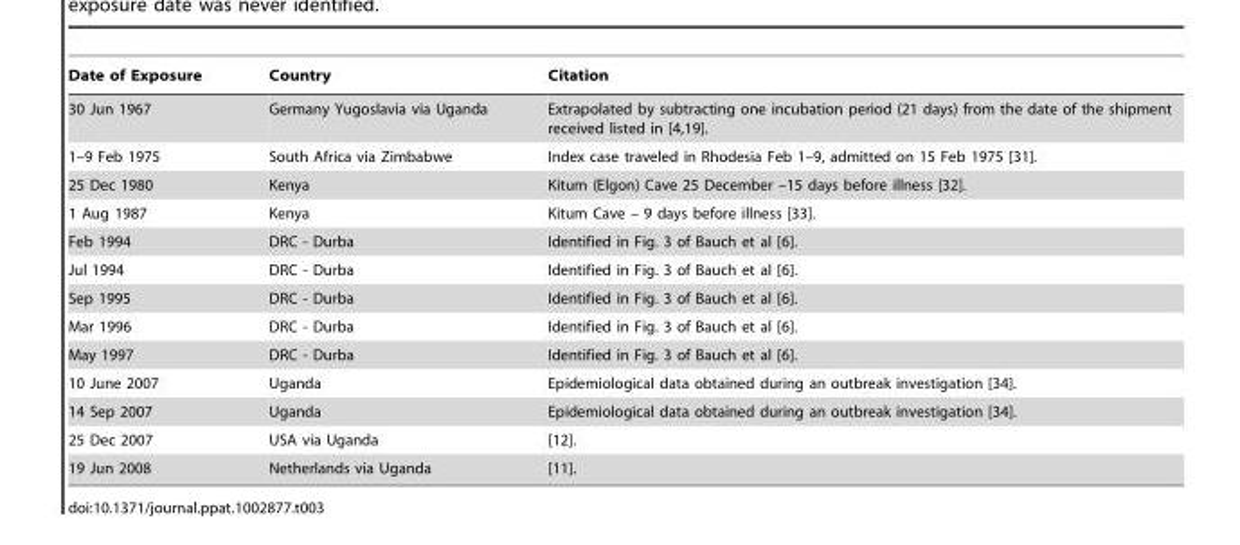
<table><thead><tr><td>Date of Exposure</td><td>Country</td><td>Citation</td></tr></thead><tbody><tr><td>30 Jun 1967</td><td>Germany Yugoslavia via Uganda</td><td>Extrapolated by subtracting one incubation period (21 days) from the date of the shipment received listed in [4,19].</td></tr><tr><td>1–9 Feb 1975</td><td>South Africa via Zimbabwe</td><td>Index case traveled in Rhodesia Feb 1–9, admitted on 15 Feb 1975 [31].</td></tr><tr><td>25 Dec 1980</td><td>Kenya</td><td>Kitum (Elgon) Cave 25 December –15 days before illness [32].</td></tr><tr><td>1 Aug 1987</td><td>Kenya</td><td>Kitum Cave – 9 days before illness [33].</td></tr><tr><td>Feb 1994</td><td>DRC - Durba</td><td>Identified in Fig. 3 of Bauch et al [6].</td></tr><tr><td>Jul 1994</td><td>DRC - Durba</td><td>Identified in Fig. 3 of Bauch et al [6].</td></tr><tr><td>Sep 1995</td><td>DRC - Durba</td><td>Identified in Fig. 3 of Bauch et al [6].</td></tr><tr><td>Mar 1996</td><td>DRC - Durba</td><td>Identified in Fig. 3 of Bauch et al [6].</td></tr><tr><td>May 1997</td><td>DRC - Durba</td><td>Identified in Fig. 3 of Bauch et al [6].</td></tr><tr><td>10 June 2007</td><td>Uganda</td><td>Epidemiological data obtained during an outbreak investigation [34].</td></tr><tr><td>14 Sep 2007</td><td>Uganda</td><td>Epidemiological data obtained during an outbreak investigation [34].</td></tr><tr><td>25 Dec 2007</td><td>USA via Uganda</td><td>[12].</td></tr><tr><td>19 Jun 2008</td><td>Netherlands via Uganda</td><td>[11].</td></tr></tbody></table>